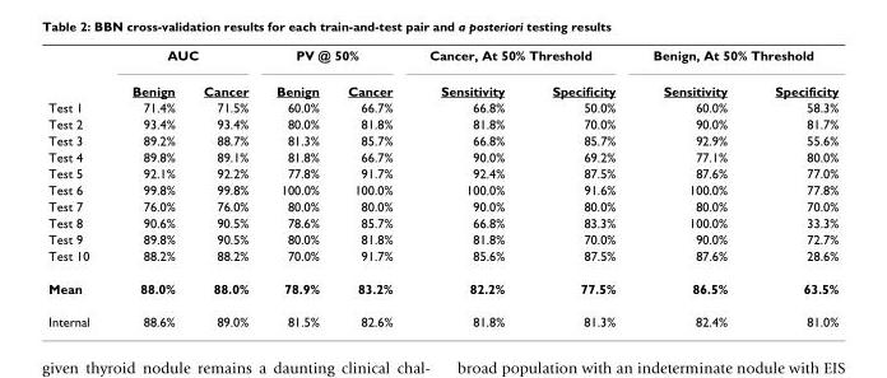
<table><thead><tr><td rowspan="2"></td><td colspan="2">AUC</td><td colspan="2">PV @ 50%</td><td colspan="2">Cancer, At 50% Threshold</td><td colspan="2">Benign, At 50% Threshold</td></tr><tr><td>Benign</td><td>Cancer</td><td>Benign</td><td>Cancer</td><td>Sensitivity</td><td>Specificity</td><td>Sensitivity</td><td>Specificity</td></tr></thead><tbody><tr><td>Test 1</td><td>71.4%</td><td>71.5%</td><td>60.0%</td><td>66.7%</td><td>66.8%</td><td>50.0%</td><td>60.0%</td><td>58.3%</td></tr><tr><td>Test 2</td><td>93.4%</td><td>93.4%</td><td>80.0%</td><td>81.8%</td><td>81.8%</td><td>70.0%</td><td>90.0%</td><td>81.7%</td></tr><tr><td>Test 3</td><td>89.2%</td><td>88.7%</td><td>81.3%</td><td>85.7%</td><td>66.8%</td><td>85.7%</td><td>92.9%</td><td>55.6%</td></tr><tr><td>Test 4</td><td>89.8%</td><td>89.1%</td><td>81.8%</td><td>66.7%</td><td>90.0%</td><td>69.2%</td><td>77.1%</td><td>80.0%</td></tr><tr><td>Test 5</td><td>92.1%</td><td>92.2%</td><td>77.8%</td><td>91.7%</td><td>92.4%</td><td>87.5%</td><td>87.6%</td><td>77.0%</td></tr><tr><td>Test 6</td><td>99.8%</td><td>99.8%</td><td>100.0%</td><td>100.0%</td><td>100.0%</td><td>91.6%</td><td>100.0%</td><td>77.8%</td></tr><tr><td>Test 7</td><td>76.0%</td><td>76.0%</td><td>80.0%</td><td>80.0%</td><td>90.0%</td><td>80.0%</td><td>80.0%</td><td>70.0%</td></tr><tr><td>Test 8</td><td>90.6%</td><td>90.5%</td><td>78.6%</td><td>85.7%</td><td>66.8%</td><td>83.3%</td><td>100.0%</td><td>33.3%</td></tr><tr><td>Test 9</td><td>89.8%</td><td>90.5%</td><td>80.0%</td><td>81.8%</td><td>81.8%</td><td>70.0%</td><td>90.0%</td><td>72.7%</td></tr><tr><td>Test 10</td><td>88.2%</td><td>88.2%</td><td>70.0%</td><td>91.7%</td><td>85.6%</td><td>87.5%</td><td>87.6%</td><td>28.6%</td></tr><tr><td>Mean</td><td>88.0%</td><td>88.0%</td><td>78.9%</td><td>83.2%</td><td>82.2%</td><td>77.5%</td><td>86.5%</td><td>63.5%</td></tr><tr><td>Internal</td><td>88.6%</td><td>89.0%</td><td>81.5%</td><td>82.6%</td><td>81.8%</td><td>81.3%</td><td>82.4%</td><td>81.0%</td></tr></tbody></table>